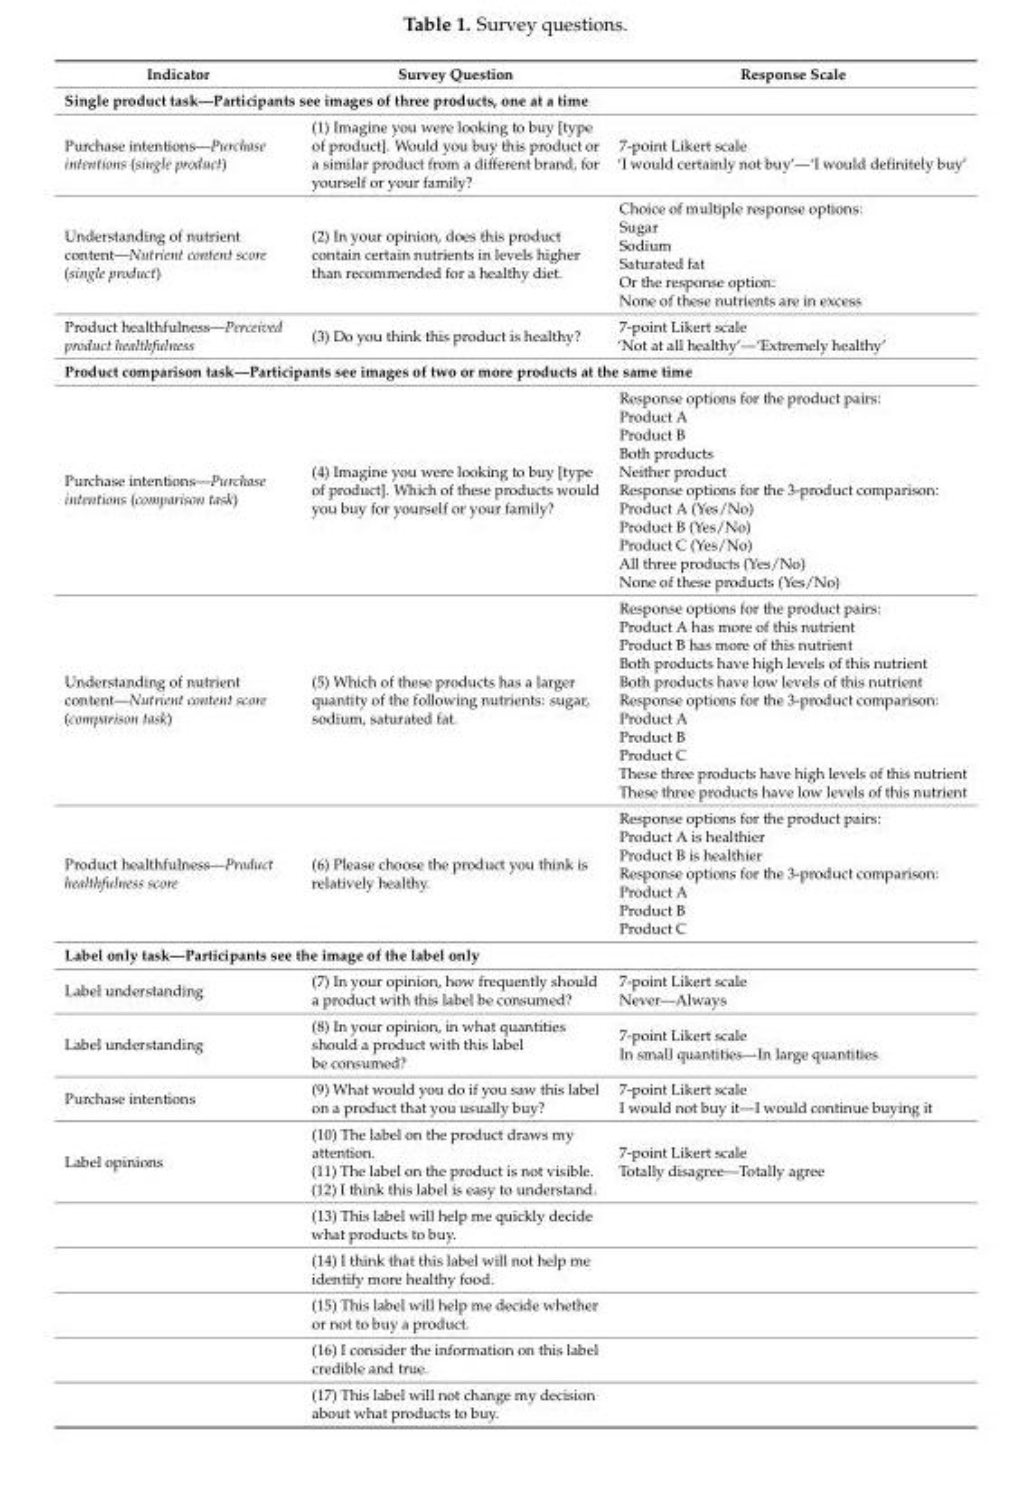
<table><thead><tr><td>Indicator</td><td>Survey Question</td><td>Response Scale</td></tr></thead><tbody><tr><td colspan="3">Single product task—Participants see images of three products, one at a time</td></tr><tr><td>Purchase intentions—Purchase intentions (single product)</td><td>(1) Imagine you were looking to buy [type of product]. Would you buy this product or a similar product from a different brand, for yourself or your family?</td><td>7-point Likert scale ‘I would certainly not buy’—‘I would definitely buy’</td></tr><tr><td>Understanding of nutrient content—Nutrient content score (single product)</td><td>(2) In your opinion, does this product contain certain nutrients in levels higher than recommended for a healthy diet.</td><td>Choice of multiple response options: Sugar Sodium Saturated fat Or the response option: None of these nutrients are in excess</td></tr><tr><td>Product healthfulness—Perceived product healthfulness</td><td>(3) Do you think this product is healthy?</td><td>7-point Likert scale ‘Not at all healthy’—‘Extremely healthy’</td></tr><tr><td colspan="3">Product comparison task—Participants see images of two or more products at the same time</td></tr><tr><td>Purchase intentions—Purchase intentions (comparison task)</td><td>(4) Imagine you were looking to buy [type of product]. Which of these products would you buy for yourself or your family?</td><td>Response options for the product pairs: Product A Product B Both products Neither product Response options for the 3-product comparison: Product A (Yes/No) Product B (Yes/No) Product C (Yes/No) All three products (Yes/No) None of these products (Yes/No)</td></tr><tr><td>Understanding of nutrient content—Nutrient content score (comparison task)</td><td>(5) Which of these products has a larger quantity of the following nutrients: sugar, sodium, saturated fat.</td><td>Response options for the product pairs: Product A has more of this nutrient Product B has more of this nutrient Both products have high levels of this nutrient Both products have low levels of this nutrient Response options for the 3-product comparison: Product A Product B Product C These three products have high levels of this nutrient These three products have low levels of this nutrient</td></tr><tr><td>Product healthfulness—Product healthfulness score</td><td>(6) Please choose the product you think is relatively healthy.</td><td>Response options for the product pairs: Product A is healthier Product B is healthier Response options for the 3-product comparison: Product A Product B Product C</td></tr><tr><td colspan="3">Label only task—Participants see the image of the label only</td></tr><tr><td>Label understanding</td><td>(7) In your opinion, how frequently should a product with this label be consumed?</td><td>7-point Likert scale Never—Always</td></tr><tr><td>Label understanding</td><td>(8) In your opinion, in what quantities should a product with this label be consumed?</td><td>7-point Likert scale In small quantities—In large quantities</td></tr><tr><td>Purchase intentions</td><td>(9) What would you do if you saw this label on a product that you usually buy?</td><td>7-point Likert scale I would not buy it—I would continue buying it</td></tr><tr><td rowspan="6">Label opinions</td><td>(10) The label on the product draws my attention. (11) The label on the product is not visible. (12) I think this label is easy to understand.</td><td>7-point Likert scale Totally disagree—Totally agree</td></tr><tr><td>(13) This label will help me quickly decide what products to buy.</td><td></td></tr><tr><td>(14) I think that this label will not help me identify more healthy food.</td><td></td></tr><tr><td>(15) This label will help me decide whether or not to buy a product.</td><td></td></tr><tr><td>(16) I consider the information on this label credible and true.</td><td></td></tr><tr><td>(17) This label will not change my decision about what products to buy.</td><td></td></tr></tbody></table>